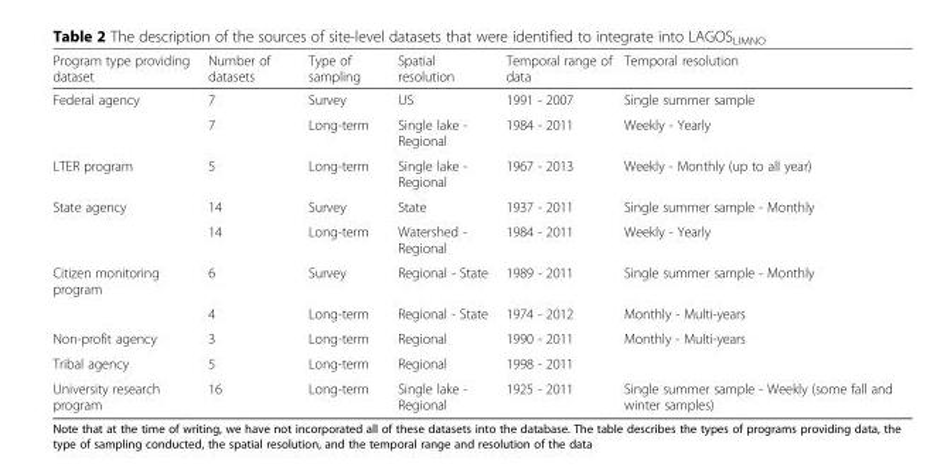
<table><thead><tr><td>Program type providing dataset</td><td>Number of datasets</td><td>Type of sampling</td><td>Spatial resolution</td><td>Temporal range of data</td><td>Temporal resolution</td></tr></thead><tbody><tr><td rowspan="2">Federal agency</td><td>7</td><td>Survey</td><td>US</td><td>1991 - 2007</td><td>Single summer sample</td></tr><tr><td>7</td><td>Long-term</td><td>Single lake - Regional</td><td>1984 - 2011</td><td>Weekly - Yearly</td></tr><tr><td>LTER program</td><td>5</td><td>Long-term</td><td>Single lake - Regional</td><td>1967 - 2013</td><td>Weekly - Monthly (up to all year)</td></tr><tr><td rowspan="2">State agency</td><td>14</td><td>Survey</td><td>State</td><td>1937 - 2011</td><td>Single summer sample - Monthly</td></tr><tr><td>14</td><td>Long-term</td><td>Watershed - Regional</td><td>1984 - 2011</td><td>Weekly - Yearly</td></tr><tr><td rowspan="2">Citizen monitoring program</td><td>6</td><td>Survey</td><td>Regional - State</td><td>1989 - 2011</td><td>Single summer sample - Monthly</td></tr><tr><td>4</td><td>Long-term</td><td>Regional - State</td><td>1974 - 2012</td><td>Monthly - Multi-years</td></tr><tr><td>Non-profit agency</td><td>3</td><td>Long-term</td><td>Regional</td><td>1990 - 2011</td><td>Monthly - Multi-years</td></tr><tr><td>Tribal agency</td><td>5</td><td>Long-term</td><td>Regional</td><td>1998 - 2011</td><td></td></tr><tr><td>University research program</td><td>16</td><td>Long-term</td><td>Single lake - Regional</td><td>1925 - 2011</td><td>Single summer sample - Weekly (some fall and winter samples)</td></tr></tbody></table>